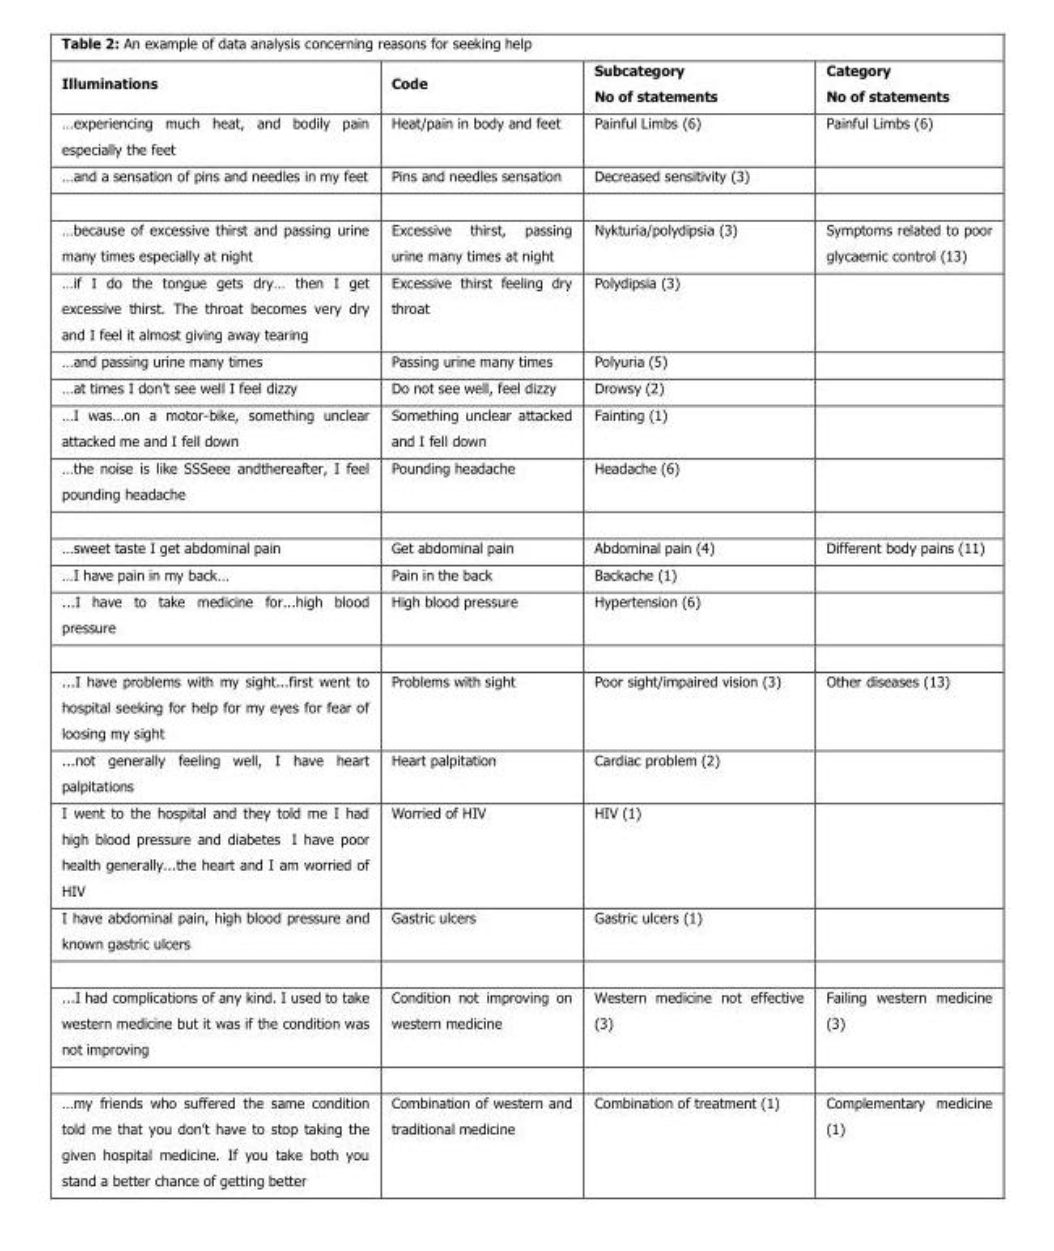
<table><thead><tr><td>Illuminations</td><td>Code</td><td>Subcategory No of statements</td><td>Category No of statements</td></tr></thead><tbody><tr><td>…experiencing much heat, and bodily pain especially the feet</td><td>Heat/pain in body and feet</td><td>Painful Limbs (6)</td><td>Painful Limbs (6)</td></tr><tr><td>…and a sensation of pins and needles in my feet</td><td>Pins and needles sensation</td><td>Decreased sensitivity (3)</td><td></td></tr><tr><td>…because of excessive thirst and passing urine many times especially at night</td><td>Excessive thirst, passing urine many times at night</td><td>Nykturia/polydipsia (3)</td><td>Symptoms related to poor glycaemic control (13)</td></tr><tr><td>…if I do the tongue gets dry… then I get excessive thirst. The throat becomes very dry and I feel it almost giving away tearing</td><td>Excessive thirst feeling dry throat</td><td>Polydipsia (3)</td><td></td></tr><tr><td>…and passing urine many times</td><td>Passing urine many times</td><td>Polyuria (5)</td><td></td></tr><tr><td>…at times I don’t see well I feel dizzy</td><td>Do not see well, feel dizzy</td><td>Drowsy (2)</td><td></td></tr><tr><td>…I was…on a motor-bike, something unclear attacked me and I fell down</td><td>Something unclear attacked and I fell down</td><td>Fainting (1)</td><td></td></tr><tr><td>…the noise is like SSSeee andthereafter, I feel pounding headache</td><td>Pounding headache</td><td>Headache (6)</td><td></td></tr><tr><td>…sweet taste I get abdominal pain</td><td>Get abdominal pain</td><td>Abdominal pain (4)</td><td>Different body pains (11)</td></tr><tr><td>…I have pain in my back…</td><td>Pain in the back</td><td>Backache (1)</td><td></td></tr><tr><td>...I have to take medicine for...high blood pressure</td><td>High blood pressure</td><td>Hypertension (6)</td><td></td></tr><tr><td>...I have problems with my sight...first went to hospital seeking for help for my eyes for fear of loosing my sight</td><td>Problems with sight</td><td>Poor sight/impaired vision (3)</td><td>Other diseases (13)</td></tr><tr><td>...not generally feeling well, I have heart palpitations</td><td>Heart palpitation</td><td>Cardiac problem (2)</td><td></td></tr><tr><td>I went to the hospital and they told me I had high blood pressure and diabetes I have poor health generally...the heart and I am worried of HIV</td><td>Worried of HIV</td><td>HIV (1)</td><td></td></tr><tr><td>I have abdominal pain, high blood pressure and known gastric ulcers</td><td>Gastric ulcers</td><td>Gastric ulcers (1)</td><td></td></tr><tr><td>...I had complications of any kind. I used to take western medicine but it was if the condition was not improving</td><td>Condition not improving on western medicine</td><td>Western medicine not effective (3)</td><td>Failing western medicine (3)</td></tr><tr><td>…my friends who suffered the same condition told me that you don’t have to stop taking the given hospital medicine. If you take both you stand a better chance of getting better</td><td>Combination of western and traditional medicine</td><td>Combination of treatment (1)</td><td>Complementary medicine (1)</td></tr></tbody></table>